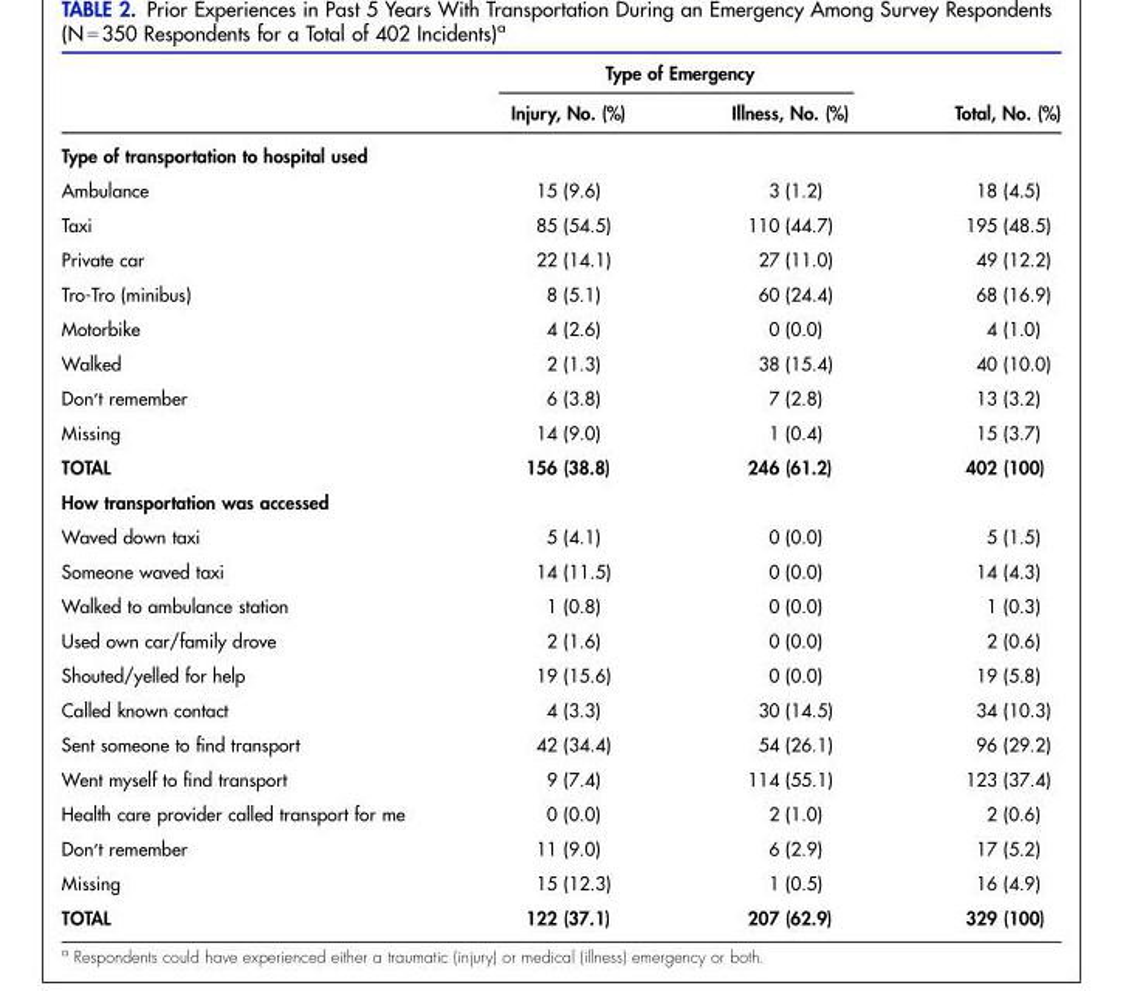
<table><thead><tr><td rowspan="2"></td><td colspan="2">Type of Emergency</td><td rowspan="2">Total, No. (%)</td></tr><tr><td>Injury, No. (%)</td><td>Illness, No. (%)</td></tr></thead><tbody><tr><td colspan="4">Type of transportation to hospital used</td></tr><tr><td>Ambulance</td><td>15 (9.6)</td><td>3 (1.2)</td><td>18 (4.5)</td></tr><tr><td>Taxi</td><td>85 (54.5)</td><td>110 (44.7)</td><td>195 (48.5)</td></tr><tr><td>Private car</td><td>22 (14.1)</td><td>27 (11.0)</td><td>49 (12.2)</td></tr><tr><td>Tro-Tro (minibus)</td><td>8 (5.1)</td><td>60 (24.4)</td><td>68 (16.9)</td></tr><tr><td>Motorbike</td><td>4 (2.6)</td><td>0 (0.0)</td><td>4 (1.0)</td></tr><tr><td>Walked</td><td>2 (1.3)</td><td>38 (15.4)</td><td>40 (10.0)</td></tr><tr><td>Don’t remember</td><td>6 (3.8)</td><td>7 (2.8)</td><td>13 (3.2)</td></tr><tr><td>Missing</td><td>14 (9.0)</td><td>1 (0.4)</td><td>15 (3.7)</td></tr><tr><td>TOTAL</td><td>156 (38.8)</td><td>246 (61.2)</td><td>402 (100)</td></tr><tr><td colspan="4">How transportation was accessed</td></tr><tr><td>Waved down taxi</td><td>5 (4.1)</td><td>0 (0.0)</td><td>5 (1.5)</td></tr><tr><td>Someone waved taxi</td><td>14 (11.5)</td><td>0 (0.0)</td><td>14 (4.3)</td></tr><tr><td>Walked to ambulance station</td><td>1 (0.8)</td><td>0 (0.0)</td><td>1 (0.3)</td></tr><tr><td>Used own car/family drove</td><td>2 (1.6)</td><td>0 (0.0)</td><td>2 (0.6)</td></tr><tr><td>Shouted/yelled for help</td><td>19 (15.6)</td><td>0 (0.0)</td><td>19 (5.8)</td></tr><tr><td>Called known contact</td><td>4 (3.3)</td><td>30 (14.5)</td><td>34 (10.3)</td></tr><tr><td>Sent someone to find transport</td><td>42 (34.4)</td><td>54 (26.1)</td><td>96 (29.2)</td></tr><tr><td>Went myself to find transport</td><td>9 (7.4)</td><td>114 (55.1)</td><td>123 (37.4)</td></tr><tr><td>Health care provider called transport for me</td><td>0 (0.0)</td><td>2 (1.0)</td><td>2 (0.6)</td></tr><tr><td>Don’t remember</td><td>11 (9.0)</td><td>6 (2.9)</td><td>17 (5.2)</td></tr><tr><td>Missing</td><td>15 (12.3)</td><td>1 (0.5)</td><td>16 (4.9)</td></tr><tr><td>TOTAL</td><td>122 (37.1)</td><td>207 (62.9)</td><td>329 (100)</td></tr></tbody></table>